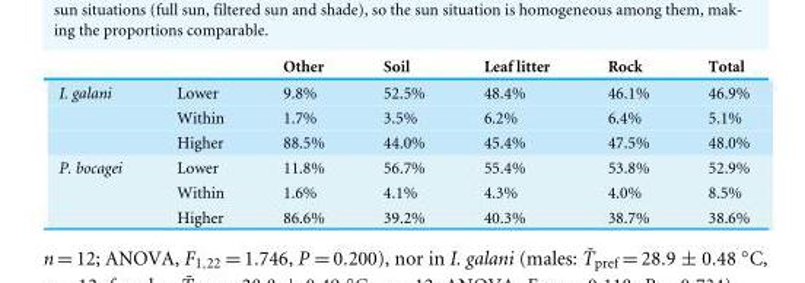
<table><thead><tr><td></td><td></td><td>Other</td><td>Soil</td><td>Leaf litter</td><td>Rock</td><td>Total</td></tr></thead><tbody><tr><td rowspan="3">;I. galani ; ;</td><td>Lower</td><td>9.8%</td><td>52.5%</td><td>48.4%</td><td>46.1%</td><td>46.9%</td></tr><tr><td>Within</td><td>1.7%</td><td>3.5%</td><td>6.2%</td><td>6.4%</td><td>5.1%</td></tr><tr><td>Higher</td><td>88.5%</td><td>44.0%</td><td>45.4%</td><td>47.5%</td><td>48.0%</td></tr><tr><td rowspan="3">;P. bocagei ; ;</td><td>Lower</td><td>11.8%</td><td>56.7%</td><td>55.4%</td><td>53.8%</td><td>52.9%</td></tr><tr><td>Within</td><td>1.6%</td><td>4.1%</td><td>4.3%</td><td>4.0%</td><td>8.5%</td></tr><tr><td>Higher</td><td>86.6%</td><td>39.2%</td><td>40.3%</td><td>38.7%</td><td>38.6%</td></tr></tbody></table>